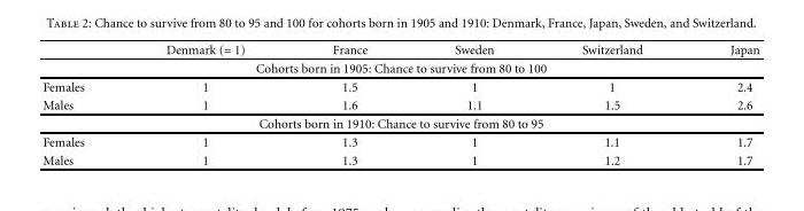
<table><thead><tr><td></td><td>Denmark (= 1)</td><td>France</td><td>Sweden</td><td>Switzerland</td><td>Japan</td></tr></thead><tbody><tr><td colspan="6">Cohorts born in 1905: Chance to survive from 80 to 100</td></tr><tr><td>Females</td><td>1</td><td>1.5</td><td>1</td><td>1</td><td>2.4</td></tr><tr><td>Males</td><td>1</td><td>1.6</td><td>1.1</td><td>1.5</td><td>2.6</td></tr><tr><td colspan="6">Cohorts born in 1910: Chance to survive from 80 to 95</td></tr><tr><td>Females</td><td>1</td><td>1.3</td><td>1</td><td>1.1</td><td>1.7</td></tr><tr><td>Males</td><td>1</td><td>1.3</td><td>1</td><td>1.2</td><td>1.7</td></tr></tbody></table>